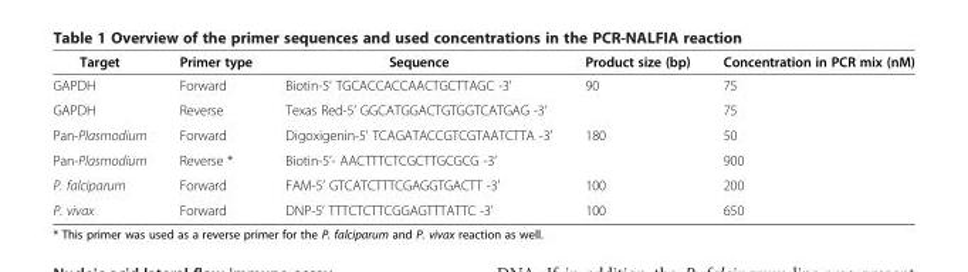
<table><thead><tr><td>Target</td><td>Primer type</td><td>Sequence</td><td>Product size (bp)</td><td>Concentration in PCR mix (nM)</td></tr></thead><tbody><tr><td>GAPDH</td><td>Forward</td><td>Biotin-5’ TGCACCACCAACTGCTTAGC -3’</td><td>90</td><td>75</td></tr><tr><td>GAPDH</td><td>Reverse</td><td>Texas Red-5’ GGCATGGACTGTGGTCATGAG -3’</td><td></td><td>75</td></tr><tr><td>Pan-Plasmodium</td><td>Forward</td><td>Digoxigenin-5’ TCAGATACCGTCGTAATCTTA -3’</td><td>180</td><td>50</td></tr><tr><td>Pan-Plasmodium</td><td>Reverse *</td><td>Biotin-5’- AACTTTCTCGCTTGCGCG -3’</td><td></td><td>900</td></tr><tr><td>P. falciparum</td><td>Forward</td><td>FAM-5’ GTCATCTTTCGAGGTGACTT -3’</td><td>100</td><td>200</td></tr><tr><td>P. vivax</td><td>Forward</td><td>DNP-5’ TTTCTCTTCGGAGTTTATTC -3’</td><td>100</td><td>650</td></tr></tbody></table>